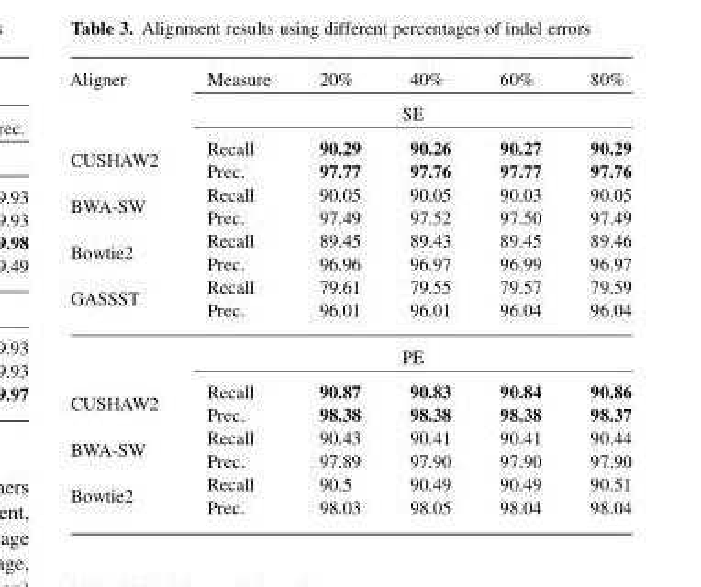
<table><thead><tr><td>Aligner</td><td>Measure</td><td>20%</td><td>40%</td><td>60%</td><td>80%</td></tr></thead><tbody><tr><td></td><td colspan="5">SE</td></tr><tr><td rowspan="2">CUSHAW2</td><td>Recall</td><td>90.29</td><td>90.26</td><td>90.27</td><td>90.29</td></tr><tr><td>Prec.</td><td>97.77</td><td>97.76</td><td>97.77</td><td>97.76</td></tr><tr><td rowspan="2">BWA-SW</td><td>Recall</td><td>90.05</td><td>90.05</td><td>90.03</td><td>90.05</td></tr><tr><td>Prec.</td><td>97.49</td><td>97.52</td><td>97.50</td><td>97.49</td></tr><tr><td rowspan="2">Bowtie2</td><td>Recall</td><td>89.45</td><td>89.43</td><td>89.45</td><td>89.46</td></tr><tr><td>Prec.</td><td>96.96</td><td>96.97</td><td>96.99</td><td>96.97</td></tr><tr><td rowspan="3">GASSST</td><td>Recall</td><td>79.61</td><td>79.55</td><td>79.57</td><td>79.59</td></tr><tr><td>Prec.</td><td>96.01</td><td>96.01</td><td>96.04</td><td>96.04</td></tr><tr><td colspan="5">PE</td></tr><tr><td rowspan="2">CUSHAW2</td><td>Recall</td><td>90.87</td><td>90.83</td><td>90.84</td><td>90.86</td></tr><tr><td>Prec.</td><td>98.38</td><td>98.38</td><td>98.38</td><td>98.37</td></tr><tr><td rowspan="2">BWA-SW</td><td>Recall</td><td>90.43</td><td>90.41</td><td>90.41</td><td>90.44</td></tr><tr><td>Prec.</td><td>97.89</td><td>97.90</td><td>97.90</td><td>97.90</td></tr><tr><td rowspan="2">Bowtie2</td><td>Recall</td><td>90.5</td><td>90.49</td><td>90.49</td><td>90.51</td></tr><tr><td>Prec.</td><td>98.03</td><td>98.05</td><td>98.04</td><td>98.04</td></tr></tbody></table>